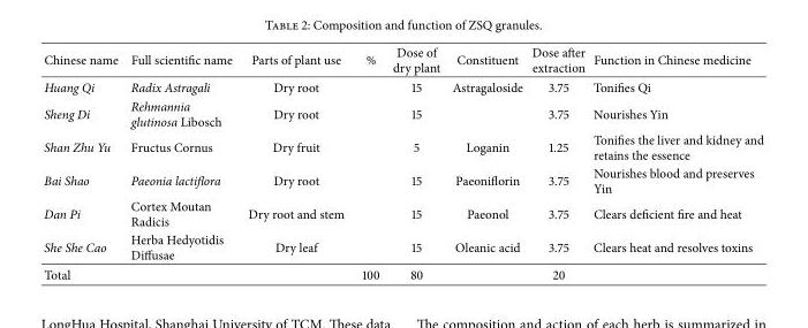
<table><thead><tr><td>Chinese name</td><td>Full scientific name</td><td>Parts of plant use</td><td>%</td><td>Dose of dry plant</td><td>Constituent</td><td>Dose after extraction</td><td>Function in Chinese medicine</td></tr></thead><tbody><tr><td>Huang Qi</td><td>Radix Astragali</td><td>Dry root</td><td></td><td>15</td><td>Astragaloside</td><td>3.75</td><td>Tonifies Qi</td></tr><tr><td>Sheng Di</td><td>Rehmannia glutinosa Libosch</td><td>Dry root</td><td></td><td>15</td><td></td><td>3.75</td><td>Nourishes Yin</td></tr><tr><td>Shan Zhu Yu</td><td>Fructus Cornus</td><td>Dry fruit</td><td></td><td>5</td><td>Loganin</td><td>1.25</td><td>Tonifies the liver and kidney and retains the essence</td></tr><tr><td>Bai Shao</td><td>Paeonia lactiflora</td><td>Dry root</td><td></td><td>15</td><td>Paeoniflorin</td><td>3.75</td><td>Nourishes blood and preserves Yin</td></tr><tr><td>Dan Pi</td><td>Cortex Moutan Radicis</td><td>Dry root and stem</td><td></td><td>15</td><td>Paeonol</td><td>3.75</td><td>Clears deficient fire and heat</td></tr><tr><td>She She Cao</td><td>Herba Hedyotidis Diffusae</td><td>Dry leaf</td><td></td><td>15</td><td>Oleanic acid</td><td>3.75</td><td>Clears heat and resolves toxins</td></tr><tr><td>Total</td><td></td><td></td><td>100</td><td>80</td><td></td><td>20</td><td></td></tr></tbody></table>